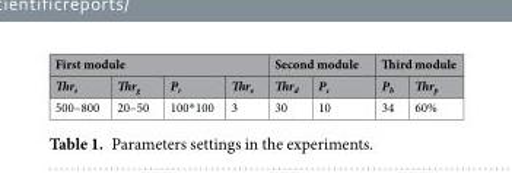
<table><thead><tr><td colspan="4">First module</td><td colspan="2">Second module</td><td colspan="2">Third module</td></tr><tr><td>Thr<sub>s</sub></td><td>Thr<sub>g</sub></td><td>P<sub>r</sub></td><td>Thr<sub>e</sub></td><td>Thr<sub>d</sub></td><td>P<sub>c</sub></td><td>P<sub>b</sub></td><td>Thr<sub>p</sub></td></tr></thead><tbody><tr><td>500–800</td><td>20–50</td><td>100*100</td><td>3</td><td>30</td><td>10</td><td>34</td><td>60%</td></tr></tbody></table>